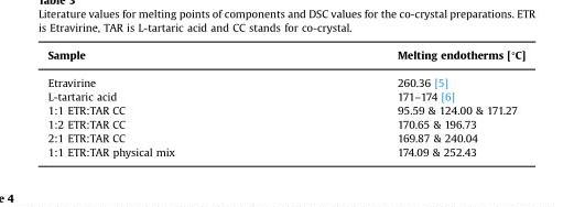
<table><thead><tr><td>Sample</td><td>Melting endotherms [°C]</td></tr></thead><tbody><tr><td>Etravirine</td><td>260.36 [5]</td></tr><tr><td>L-tartaric acid</td><td>171–174 [6]</td></tr><tr><td>1:1 ETR:TAR CC</td><td>95.59 &amp; 124.00 &amp; 171.27</td></tr><tr><td>1:2 ETR:TAR CC</td><td>170.65 &amp; 196.73</td></tr><tr><td>2:1 ETR:TAR CC</td><td>169.87 &amp; 240.04</td></tr><tr><td>1:1 ETR:TAR physical mix</td><td>174.09 &amp; 252.43</td></tr></tbody></table>